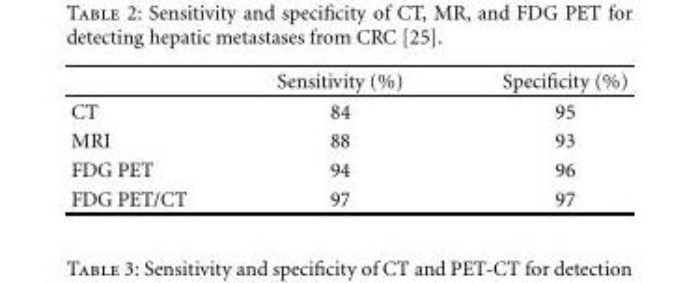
<table><thead><tr><td></td><td>Sensitivity (%)</td><td>Specificity (%)</td></tr></thead><tbody><tr><td>CT</td><td>84</td><td>95</td></tr><tr><td>MRI</td><td>88</td><td>93</td></tr><tr><td>FDG PET</td><td>94</td><td>96</td></tr><tr><td>FDG PET/CT</td><td>97</td><td>97</td></tr></tbody></table>